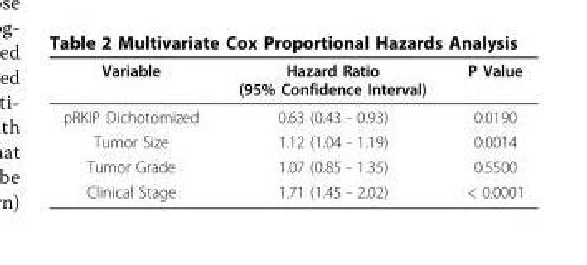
<table><thead><tr><td>Variable</td><td>Hazard Ratio (95% Confidence Interval)</td><td>P Value</td></tr></thead><tbody><tr><td>pRKIP Dichotomized</td><td>0.63 (0.43 - 0.93)</td><td>0.0190</td></tr><tr><td>Tumor Size</td><td>1.12 (1.04 - 1.19)</td><td>0.0014</td></tr><tr><td>Tumor Grade</td><td>1.07 (0.85 - 1.35)</td><td>0.5500</td></tr><tr><td>Clinical Stage</td><td>1.71 (1.45 - 2.02)</td><td>&lt; 0.0001</td></tr></tbody></table>